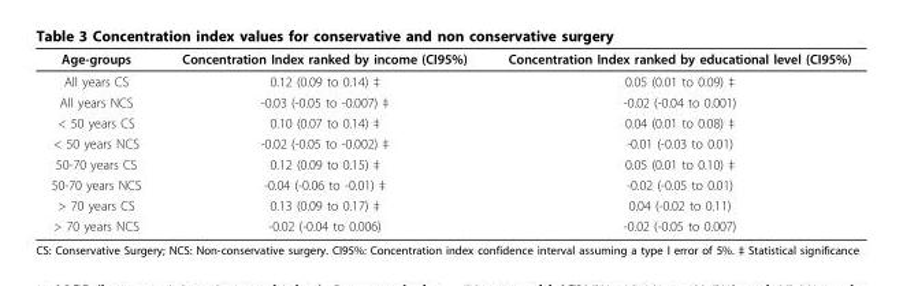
<table><thead><tr><td>Age-groups</td><td>Concentration Index ranked by income (CI95%)</td><td>Concentration Index ranked by educational level (CI95%)</td></tr></thead><tbody><tr><td>All years CS</td><td>0.12 (0.09 to 0.14) ‡</td><td>0.05 (0.01 to 0.09) ‡</td></tr><tr><td>All years NCS</td><td>-0.03 (-0.05 to -0.007) ‡</td><td>-0.02 (-0.04 to 0.001)</td></tr><tr><td>&lt; 50 years CS</td><td>0.10 (0.07 to 0.14) ‡</td><td>0.04 (0.01 to 0.08) ‡</td></tr><tr><td>&lt; 50 years NCS</td><td>-0.02 (-0.05 to -0.002) ‡</td><td>-0.01 (-0.03 to 0.01)</td></tr><tr><td>50-70 years CS</td><td>0.12 (0.09 to 0.15) ‡</td><td>0.05 (0.01 to 0.10) ‡</td></tr><tr><td>50-70 years NCS</td><td>-0.04 (-0.06 to -0.01) ‡</td><td>-0.02 (-0.05 to 0.01)</td></tr><tr><td>&gt; 70 years CS</td><td>0.13 (0.09 to 0.17) ‡</td><td>0.04 (-0.02 to 0.11)</td></tr><tr><td>&gt; 70 years NCS</td><td>-0.02 (-0.04 to 0.006)</td><td>-0.02 (-0.05 to 0.007)</td></tr></tbody></table>